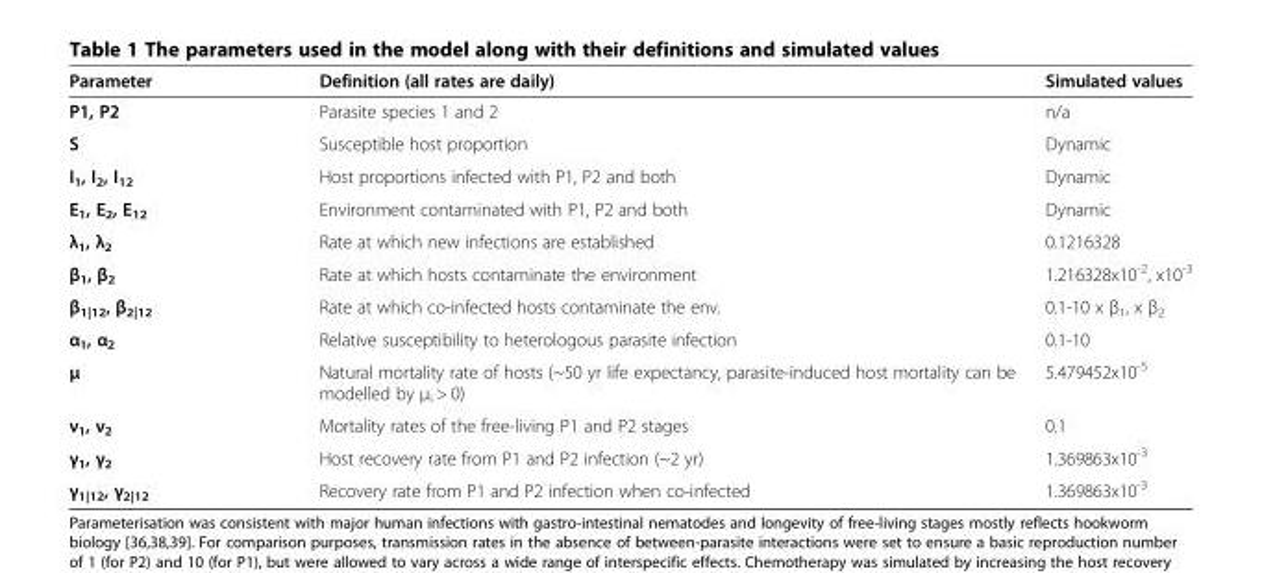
<table><thead><tr><td>Parameter</td><td>Definition (all rates are daily)</td><td>Simulated values</td></tr></thead><tbody><tr><td>P1, P2</td><td>Parasite species 1 and 2</td><td>n/a</td></tr><tr><td>S</td><td>Susceptible host proportion</td><td>Dynamic</td></tr><tr><td>I<sub>1</sub>, I<sub>2</sub>, I<sub>12</sub></td><td>Host proportions infected with P1, P2 and both</td><td>Dynamic</td></tr><tr><td>E<sub>1</sub>, E<sub>2</sub>, E<sub>12</sub></td><td>Environment contaminated with P1, P2 and both</td><td>Dynamic</td></tr><tr><td>λ<sub>1</sub>, λ<sub>2</sub></td><td>Rate at which new infections are established</td><td>0.1216328</td></tr><tr><td>β<sub>1</sub>, β<sub>2</sub></td><td>Rate at which hosts contaminate the environment</td><td>1.216328x10<sup>-2</sup>, x10<sup>-3</sup></td></tr><tr><td>β<sub>1|12</sub>, β<sub>2|12</sub></td><td>Rate at which co-infected hosts contaminate the env.</td><td>0.1-10 x β<sub>1</sub>, x β<sub>2</sub></td></tr><tr><td>α<sub>1</sub>, α<sub>2</sub></td><td>Relative susceptibility to heterologous parasite infection</td><td>0.1-10</td></tr><tr><td>μ</td><td>Natural mortality rate of hosts (~50 yr life expectancy, parasite-induced host mortality can be modelled by μ<sub>i</sub> &gt; 0)</td><td>5.479452x10<sup>-5</sup></td></tr><tr><td>ν<sub>1</sub>, ν<sub>2</sub></td><td>Mortality rates of the free-living P1 and P2 stages</td><td>0.1</td></tr><tr><td>γ<sub>1</sub>, γ<sub>2</sub></td><td>Host recovery rate from P1 and P2 infection (~2 yr)</td><td>1.369863x10<sup>-3</sup></td></tr><tr><td>γ<sub>1|12</sub>, γ<sub>2|12</sub></td><td>Recovery rate from P1 and P2 infection when co-infected</td><td>1.369863x10<sup>-3</sup></td></tr></tbody></table>